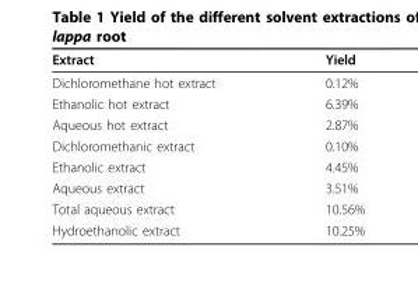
<table><thead><tr><td>Extract</td><td>Yield</td></tr></thead><tbody><tr><td>Dichloromethane hot extract</td><td>0.12%</td></tr><tr><td>Ethanolic hot extract</td><td>6.39%</td></tr><tr><td>Aqueous hot extract</td><td>2.87%</td></tr><tr><td>Dichloromethanic extract</td><td>0.10%</td></tr><tr><td>Ethanolic extract</td><td>4.45%</td></tr><tr><td>Aqueous extract</td><td>3.51%</td></tr><tr><td>Total aqueous extract</td><td>10.56%</td></tr><tr><td>Hydroethanolic extract</td><td>10.25%</td></tr></tbody></table>